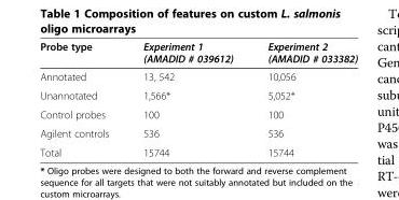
<table><thead><tr><td>Probe type</td><td>Experiment 1 (AMADID # 039612)</td><td>Experiment 2 (AMADID # 033382)</td></tr></thead><tbody><tr><td>Annotated</td><td>13, 542</td><td>10,056</td></tr><tr><td>Unannotated</td><td>1,566*</td><td>5,052*</td></tr><tr><td>Control probes</td><td>100</td><td>100</td></tr><tr><td>Agilent controls</td><td>536</td><td>536</td></tr><tr><td>Total</td><td>15744</td><td>15744</td></tr></tbody></table>